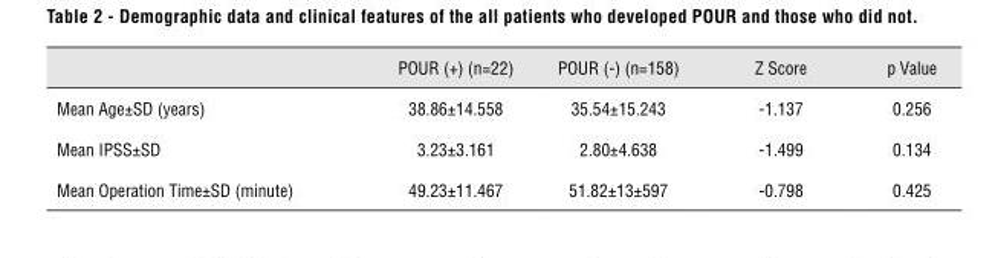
<table><thead><tr><td></td><td>POUR (+) (n=22)</td><td>POUR (-) (n=158)</td><td>Z Score</td><td>p Value</td></tr></thead><tbody><tr><td>Mean Age±SD (years)</td><td>38.86±14.558</td><td>35.54±15.243</td><td>-1.137</td><td>0.256</td></tr><tr><td>Mean IPSS±SD</td><td>3.23±3.161</td><td>2.80±4.638</td><td>-1.499</td><td>0.134</td></tr><tr><td>Mean Operation Time±SD (minute)</td><td>49.23±11.467</td><td>51.82±13±597</td><td>-0.798</td><td>0.425</td></tr></tbody></table>